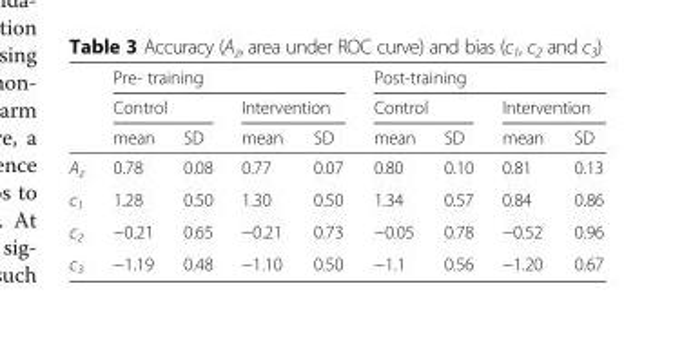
<table><thead><tr><td rowspan="3"></td><td colspan="4">Pre- training</td><td colspan="4">Post-training</td></tr><tr><td colspan="2">Control</td><td colspan="2">Intervention</td><td colspan="2">Control</td><td colspan="2">Intervention</td></tr><tr><td>mean</td><td>SD</td><td>mean</td><td>SD</td><td>mean</td><td>SD</td><td>mean</td><td>SD</td></tr></thead><tbody><tr><td>A<sub>z</sub></td><td>0.78</td><td>0.08</td><td>0.77</td><td>0.07</td><td>0.80</td><td>0.10</td><td>0.81</td><td>0.13</td></tr><tr><td>c<sub>1</sub></td><td>1.28</td><td>0.50</td><td>1.30</td><td>0.50</td><td>1.34</td><td>0.57</td><td>0.84</td><td>0.86</td></tr><tr><td>c<sub>2</sub></td><td>−0.21</td><td>0.65</td><td>−0.21</td><td>0.73</td><td>−0.05</td><td>0.78</td><td>−0.52</td><td>0.96</td></tr><tr><td>c<sub>3</sub></td><td>−1.19</td><td>0.48</td><td>−1.10</td><td>0.50</td><td>−1.1</td><td>0.56</td><td>−1.20</td><td>0.67</td></tr></tbody></table>